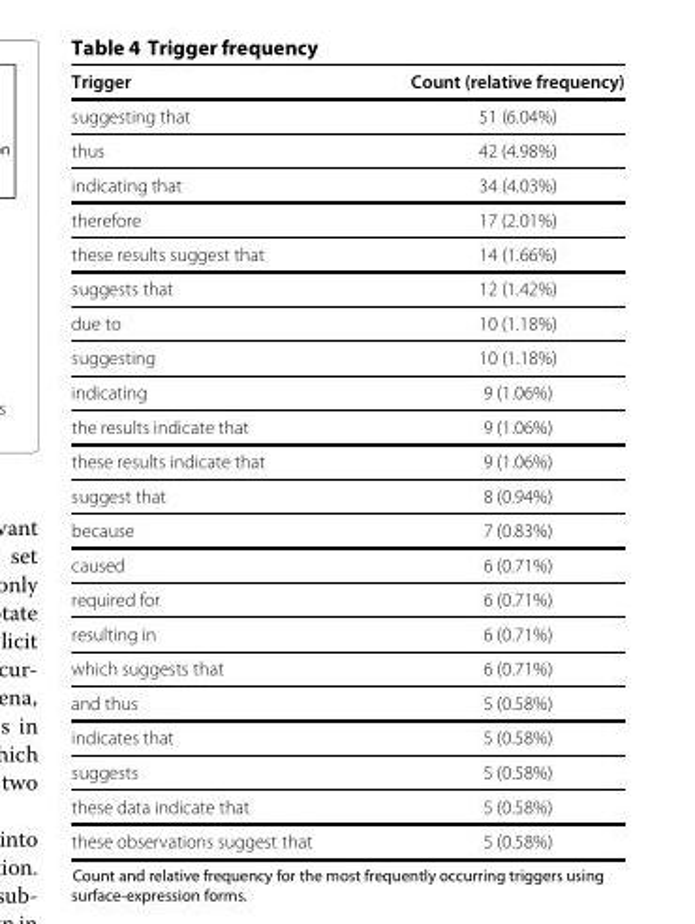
<table><thead><tr><td>Trigger</td><td>Count (relative frequency)</td></tr></thead><tbody><tr><td>suggesting that</td><td>51 (6.04%)</td></tr><tr><td>thus</td><td>42 (4.98%)</td></tr><tr><td>indicating that</td><td>34 (4.03%)</td></tr><tr><td>therefore</td><td>17 (2.01%)</td></tr><tr><td>these results suggest that</td><td>14 (1.66%)</td></tr><tr><td>suggests that</td><td>12 (1.42%)</td></tr><tr><td>due to</td><td>10 (1.18%)</td></tr><tr><td>suggesting</td><td>10 (1.18%)</td></tr><tr><td>indicating</td><td>9 (1.06%)</td></tr><tr><td>the results indicate that</td><td>9 (1.06%)</td></tr><tr><td>these results indicate that</td><td>9 (1.06%)</td></tr><tr><td>suggest that</td><td>8 (0.94%)</td></tr><tr><td>because</td><td>7 (0.83%)</td></tr><tr><td>caused</td><td>6 (0.71%)</td></tr><tr><td>required for</td><td>6 (0.71%)</td></tr><tr><td>resulting in</td><td>6 (0.71%)</td></tr><tr><td>which suggests that</td><td>6 (0.71%)</td></tr><tr><td>and thus</td><td>5 (0.58%)</td></tr><tr><td>indicates that</td><td>5 (0.58%)</td></tr><tr><td>suggests</td><td>5 (0.58%)</td></tr><tr><td>these data indicate that</td><td>5 (0.58%)</td></tr><tr><td>these observations suggest that</td><td>5 (0.58%)</td></tr></tbody></table>